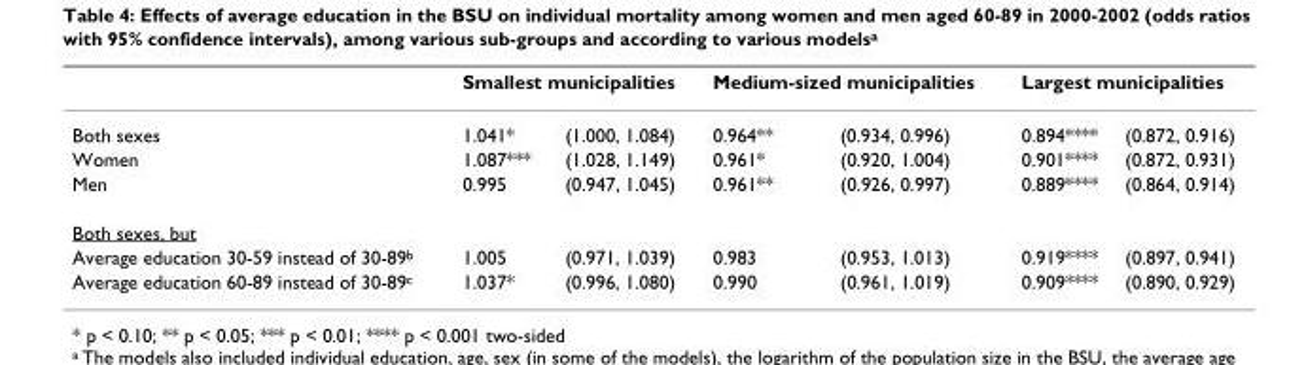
<table><thead><tr><td rowspan="2">Both sexes</td><td colspan="2">Smallest municipalities</td><td colspan="2">Medium-sized municipalities</td><td colspan="2">Largest municipalities</td></tr><tr><td>1.041*</td><td>(1.000, 1.084)</td><td>0.964**</td><td>(0.934, 0.996)</td><td>0.894****</td><td>(0.872, 0.916)</td></tr></thead><tbody><tr><td>Women</td><td>1.087***</td><td>(1.028, 1.149)</td><td>0.961*</td><td>(0.920, 1.004)</td><td>0.901****</td><td>(0.872, 0.931)</td></tr><tr><td>Men</td><td>0.995</td><td>(0.947, 1.045)</td><td>0.961**</td><td>(0.926, 0.997)</td><td>0.889****</td><td>(0.864, 0.914)</td></tr><tr><td colspan="7">Both sexes, but</td></tr><tr><td>Average education 30-59 instead of 30-89<sup>b</sup></td><td>1.005</td><td>(0.971, 1.039)</td><td>0.983</td><td>(0.953, 1.013)</td><td>0.919****</td><td>(0.897, 0.941)</td></tr><tr><td>Average education 60-89 instead of 30-89<sup>c</sup></td><td>1.037*</td><td>(0.996, 1.080)</td><td>0.990</td><td>(0.961, 1.019)</td><td>0.909****</td><td>(0.890, 0.929)</td></tr></tbody></table>